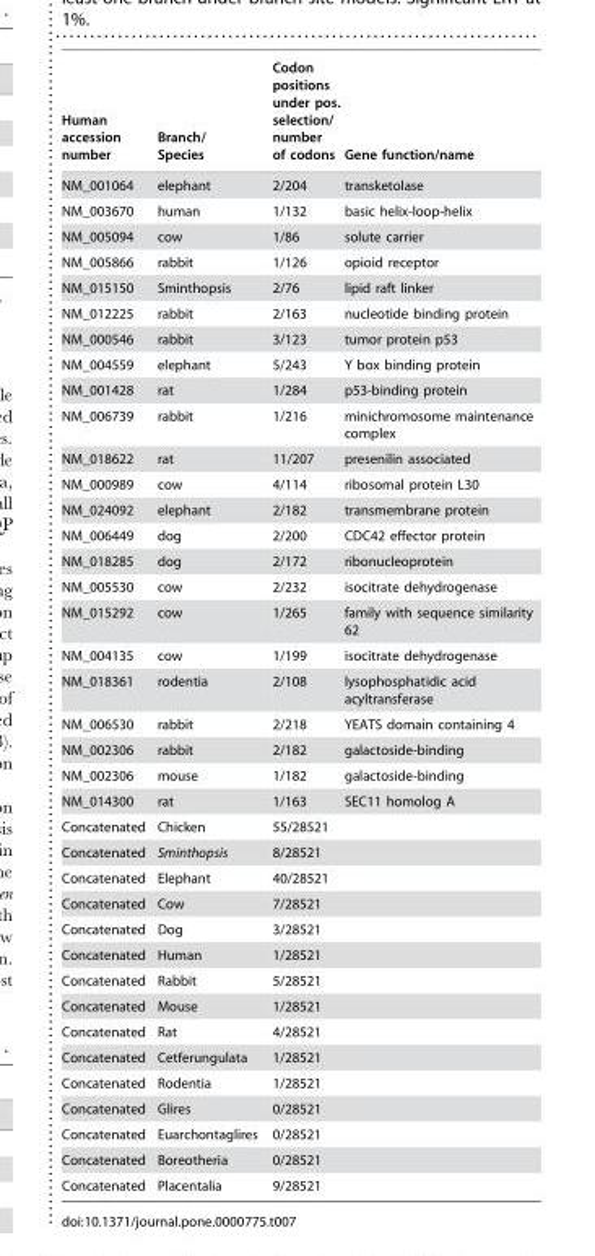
<table><thead><tr><td>Human accession number</td><td>Branch/ Species</td><td>Codon positions under pos. selection/ number of codons</td><td>Gene function/name</td></tr></thead><tbody><tr><td>NM_001064</td><td>elephant</td><td>2/204</td><td>transketolase</td></tr><tr><td>NM_003670</td><td>human</td><td>1/132</td><td>basic helix-loop-helix</td></tr><tr><td>NM_005094</td><td>cow</td><td>1/86</td><td>solute carrier</td></tr><tr><td>NM_005866</td><td>rabbit</td><td>1/126</td><td>opioid receptor</td></tr><tr><td>NM_015150</td><td>Sminthopsis</td><td>2/76</td><td>lipid raft linker</td></tr><tr><td>NM_012225</td><td>rabbit</td><td>2/163</td><td>nucleotide binding protein</td></tr><tr><td>NM_000546</td><td>rabbit</td><td>3/123</td><td>tumor protein p53</td></tr><tr><td>NM_004559</td><td>elephant</td><td>5/243</td><td>Y box binding protein</td></tr><tr><td>NM_001428</td><td>rat</td><td>1/284</td><td>p53-binding protein</td></tr><tr><td>NM_006739</td><td>rabbit</td><td>1/216</td><td>minichromosome maintenance complex</td></tr><tr><td>NM_018622</td><td>rat</td><td>11/207</td><td>presenilin associated</td></tr><tr><td>NM_000989</td><td>cow</td><td>4/114</td><td>ribosomal protein L30</td></tr><tr><td>NM_024092</td><td>elephant</td><td>2/182</td><td>transmembrane protein</td></tr><tr><td>NM_006449</td><td>dog</td><td>2/200</td><td>CDC42 effector protein</td></tr><tr><td>NM_018285</td><td>dog</td><td>2/172</td><td>ribonucleoprotein</td></tr><tr><td>NM_005530</td><td>cow</td><td>2/232</td><td>isocitrate dehydrogenase</td></tr><tr><td>NM_015292</td><td>cow</td><td>1/265</td><td>family with sequence similarity 62</td></tr><tr><td>NM_004135</td><td>cow</td><td>1/199</td><td>isocitrate dehydrogenase</td></tr><tr><td>NM_018361</td><td>rodentia</td><td>2/108</td><td>lysophosphatidic acid acyltransferase</td></tr><tr><td>NM_006530</td><td>rabbit</td><td>2/218</td><td>YEATS domain containing 4</td></tr><tr><td>NM_002306</td><td>rabbit</td><td>2/182</td><td>galactoside-binding</td></tr><tr><td>NM_002306</td><td>mouse</td><td>1/182</td><td>galactoside-binding</td></tr><tr><td>NM_014300</td><td>rat</td><td>1/163</td><td>SEC11 homolog A</td></tr><tr><td>Concatenated</td><td>Chicken</td><td>55/28521</td><td></td></tr><tr><td>Concatenated</td><td>Sminthopsis</td><td>8/28521</td><td></td></tr><tr><td>Concatenated</td><td>Elephant</td><td>40/28521</td><td></td></tr><tr><td>Concatenated</td><td>Cow</td><td>7/28521</td><td></td></tr><tr><td>Concatenated</td><td>Dog</td><td>3/28521</td><td></td></tr><tr><td>Concatenated</td><td>Human</td><td>1/28521</td><td></td></tr><tr><td>Concatenated</td><td>Rabbit</td><td>5/28521</td><td></td></tr><tr><td>Concatenated</td><td>Mouse</td><td>1/28521</td><td></td></tr><tr><td>Concatenated</td><td>Rat</td><td>4/28521</td><td></td></tr><tr><td>Concatenated</td><td>Cetferungulata</td><td>1/28521</td><td></td></tr><tr><td>Concatenated</td><td>Rodentia</td><td>1/28521</td><td></td></tr><tr><td>Concatenated</td><td>Glires</td><td>0/28521</td><td></td></tr><tr><td>Concatenated</td><td>Euarchontaglires</td><td>0/28521</td><td></td></tr><tr><td>Concatenated</td><td>Boreotheria</td><td>0/28521</td><td></td></tr><tr><td>Concatenated</td><td>Placentalia</td><td>9/28521</td><td></td></tr></tbody></table>